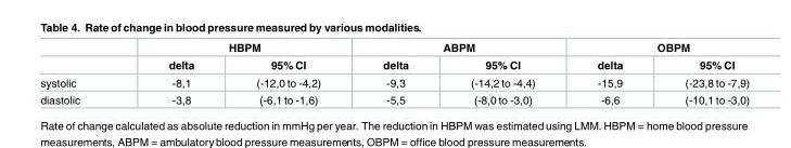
<table><thead><tr><td rowspan="2"></td><td colspan="2">HBPM</td><td colspan="2">ABPM</td><td colspan="2">OBPM</td></tr><tr><td>delta</td><td>95% CI</td><td>delta</td><td>95% CI</td><td>delta</td><td>95% CI</td></tr></thead><tbody><tr><td>systolic</td><td>-8,1</td><td>(-12,0 to -4,2)</td><td>-9,3</td><td>(-14,2 to -4,4)</td><td>-15,9</td><td>(-23,8 to -7,9)</td></tr><tr><td>diastolic</td><td>-3,8</td><td>(-6,1 to -1,6)</td><td>-5,5</td><td>(-8,0 to -3,0)</td><td>-6,6</td><td>(-10,1 to -3,0)</td></tr></tbody></table>